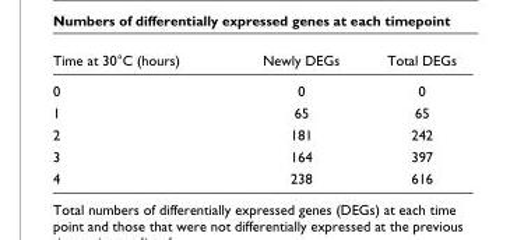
<table><thead><tr><td>Time at 30°C (hours)</td><td>Newly DEGs</td><td>Total DEGs</td></tr></thead><tbody><tr><td>0</td><td>0</td><td>0</td></tr><tr><td>1</td><td>65</td><td>65</td></tr><tr><td>2</td><td>181</td><td>242</td></tr><tr><td>3</td><td>164</td><td>397</td></tr><tr><td>4</td><td>238</td><td>616</td></tr></tbody></table>